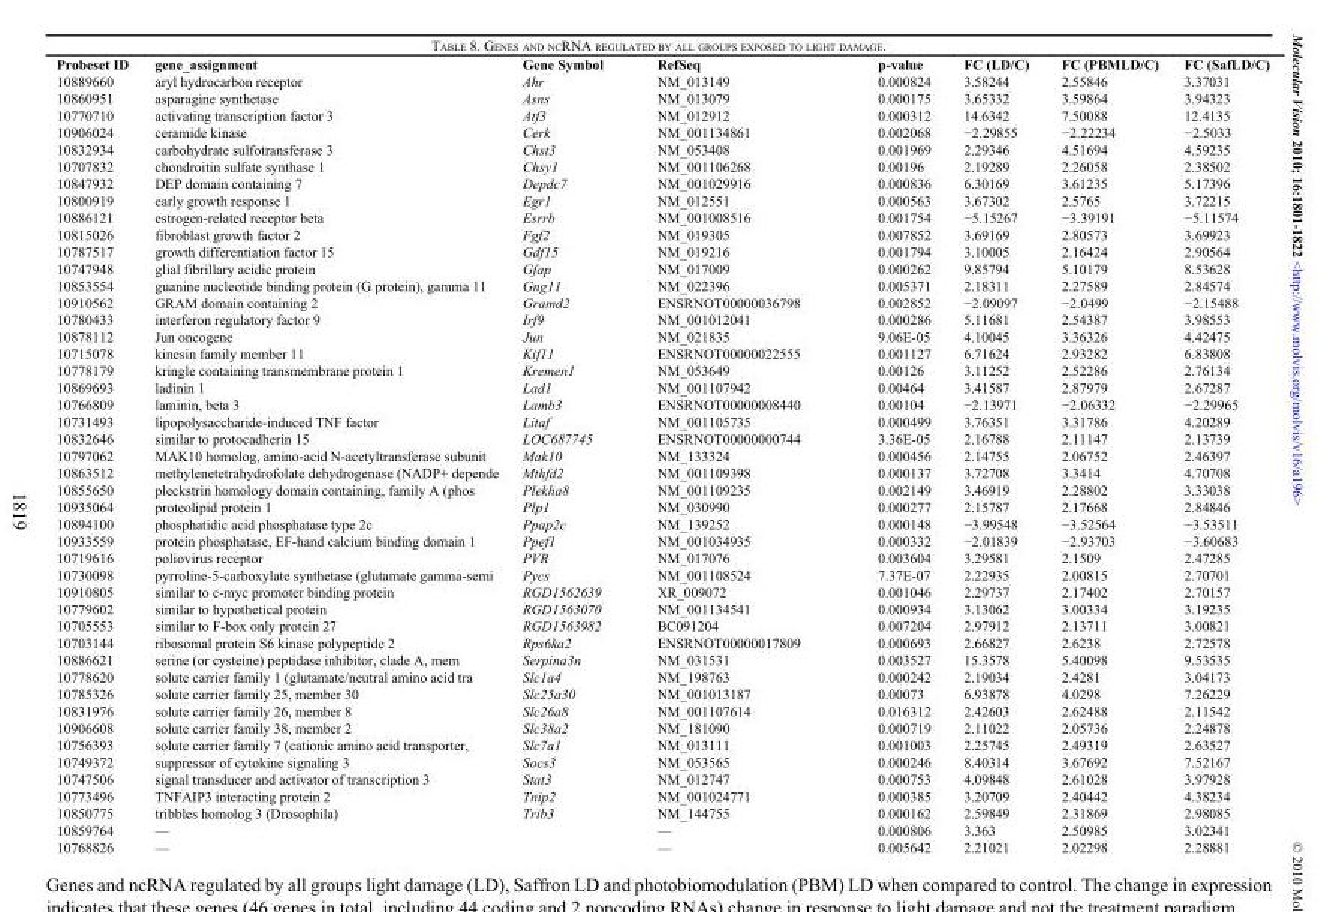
<table><thead><tr><td>Probeset ID</td><td>gene_assignment</td><td>Gene Symbol</td><td>RefSeq</td><td>p-value</td><td>FC (LD/C)</td><td>FC (PBMLD/C)</td><td>FC (SafLD/C)</td></tr></thead><tbody><tr><td>10889660</td><td>aryl hydrocarbon receptor</td><td>Ahr</td><td>NM_013149</td><td>0.000824</td><td>3.58244</td><td>2.55846</td><td>3.37031</td></tr><tr><td>10860951</td><td>asparagine synthetase</td><td>Asns</td><td>NM_013079</td><td>0.000175</td><td>3.65332</td><td>3.59864</td><td>3.94323</td></tr><tr><td>10770710</td><td>activating transcription factor 3</td><td>Atf3</td><td>NM_012912</td><td>0.000312</td><td>14.6342</td><td>7.50088</td><td>12.4135</td></tr><tr><td>10906024</td><td>ceramide kinase</td><td>Cerk</td><td>NM_001134861</td><td>0.002068</td><td>−2.29855</td><td>−2.22234</td><td>−2.5033</td></tr><tr><td>10832934</td><td>carbohydrate sulfotransferase 3</td><td>Chst3</td><td>NM_053408</td><td>0.001969</td><td>2.29346</td><td>4.51694</td><td>4.59235</td></tr><tr><td>10707832</td><td>chondroitin sulfate synthase 1</td><td>Chsy1</td><td>NM_001106268</td><td>0.00196</td><td>2.19289</td><td>2.26058</td><td>2.38502</td></tr><tr><td>10847932</td><td>DEP domain containing 7</td><td>Depdc7</td><td>NM_001029916</td><td>0.000836</td><td>6.30169</td><td>3.61235</td><td>5.17396</td></tr><tr><td>10800919</td><td>early growth response 1</td><td>Egr1</td><td>NM_012551</td><td>0.000563</td><td>3.67302</td><td>2.5765</td><td>3.72215</td></tr><tr><td>10886121</td><td>estrogen-related receptor beta</td><td>Esrrb</td><td>NM_001008516</td><td>0.001754</td><td>−5.15267</td><td>−3.39191</td><td>−5.11574</td></tr><tr><td>10815026</td><td>fibroblast growth factor 2</td><td>Fgf2</td><td>NM_019305</td><td>0.007852</td><td>3.69169</td><td>2.80573</td><td>3.69923</td></tr><tr><td>10787517</td><td>growth differentiation factor 15</td><td>Gdf15</td><td>NM_019216</td><td>0.001794</td><td>3.10005</td><td>2.16424</td><td>2.90564</td></tr><tr><td>10747948</td><td>glial fibrillary acidic protein</td><td>Gfap</td><td>NM_017009</td><td>0.000262</td><td>9.85794</td><td>5.10179</td><td>8.53628</td></tr><tr><td>10853554</td><td>guanine nucleotide binding protein (G protein), gamma 11</td><td>Gng11</td><td>NM_022396</td><td>0.005371</td><td>2.18311</td><td>2.27589</td><td>2.84574</td></tr><tr><td>10910562</td><td>GRAM domain containing 2</td><td>Gramd2</td><td>ENSRNOT00000036798</td><td>0.002852</td><td>−2.09097</td><td>−2.0499</td><td>−2.15488</td></tr><tr><td>10780433</td><td>interferon regulatory factor 9</td><td>Irf9</td><td>NM_001012041</td><td>0.000286</td><td>5.11681</td><td>2.54387</td><td>3.98553</td></tr><tr><td>10878112</td><td>Jun oncogene</td><td>Jun</td><td>NM_021835</td><td>9.06E-05</td><td>4.10045</td><td>3.36326</td><td>4.42475</td></tr><tr><td>10715078</td><td>kinesin family member 11</td><td>Kif11</td><td>ENSRNOT00000022555</td><td>0.001127</td><td>6.71624</td><td>2.93282</td><td>6.83808</td></tr><tr><td>10778179</td><td>kringle containing transmembrane protein 1</td><td>Kremen1</td><td>NM_053649</td><td>0.00126</td><td>3.11252</td><td>2.52286</td><td>2.76134</td></tr><tr><td>10869693</td><td>ladinin 1</td><td>Lad1</td><td>NM_001107942</td><td>0.00464</td><td>3.41587</td><td>2.87979</td><td>2.67287</td></tr><tr><td>10766809</td><td>laminin, beta 3</td><td>Lamb3</td><td>ENSRNOT00000008440</td><td>0.00104</td><td>−2.13971</td><td>−2.06332</td><td>−2.29965</td></tr><tr><td>10731493</td><td>lipopolysaccharide-induced TNF factor</td><td>Litaf</td><td>NM_001105735</td><td>0.000499</td><td>3.76351</td><td>3.31786</td><td>4.20289</td></tr><tr><td>10832646</td><td>similar to protocadherin 15</td><td>LOC687745</td><td>ENSRNOT00000000744</td><td>3.36E-05</td><td>2.16788</td><td>2.11147</td><td>2.13739</td></tr><tr><td>10797062</td><td>MAK10 homolog, amino-acid N-acetyltransferase subunit</td><td>Mak10</td><td>NM_133324</td><td>0.000456</td><td>2.14755</td><td>2.06752</td><td>2.46397</td></tr><tr><td>10863512</td><td>methylenetetrahydrofolate dehydrogenase (NADP+ depende</td><td>Mthfd2</td><td>NM_001109398</td><td>0.000137</td><td>3.72708</td><td>3.3414</td><td>4.70708</td></tr><tr><td>10855650</td><td>pleckstrin homology domain containing, family A (phos</td><td>Plekha8</td><td>NM_001109235</td><td>0.002149</td><td>3.46919</td><td>2.28802</td><td>3.33038</td></tr><tr><td>10935064</td><td>proteolipid protein 1</td><td>Plp1</td><td>NM_030990</td><td>0.000277</td><td>2.15787</td><td>2.17668</td><td>2.84846</td></tr><tr><td>10894100</td><td>phosphatidic acid phosphatase type 2c</td><td>Ppap2c</td><td>NM_139252</td><td>0.000148</td><td>−3.99548</td><td>−3.52564</td><td>−3.53511</td></tr><tr><td>10933559</td><td>protein phosphatase, EF-hand calcium binding domain 1</td><td>Ppef1</td><td>NM_001034935</td><td>0.000332</td><td>−2.01839</td><td>−2.93703</td><td>−3.60683</td></tr><tr><td>10719616</td><td>poliovirus receptor</td><td>PVR</td><td>NM_017076</td><td>0.003604</td><td>3.29581</td><td>2.1509</td><td>2.47285</td></tr><tr><td>10730098</td><td>pyrroline-5-carboxylate synthetase (glutamate gamma-semi</td><td>Pycs</td><td>NM_001108524</td><td>7.37E-07</td><td>2.22935</td><td>2.00815</td><td>2.70701</td></tr><tr><td>10910805</td><td>similar to c-myc promoter binding protein</td><td>RGD1562639</td><td>XR_009072</td><td>0.001046</td><td>2.29737</td><td>2.17402</td><td>2.70157</td></tr><tr><td>10779602</td><td>similar to hypothetical protein</td><td>RGD1563070</td><td>NM_001134541</td><td>0.000934</td><td>3.13062</td><td>3.00334</td><td>3.19235</td></tr><tr><td>10705553</td><td>similar to F-box only protein 27</td><td>RGD1563982</td><td>BC091204</td><td>0.007204</td><td>2.97912</td><td>2.13711</td><td>3.00821</td></tr><tr><td>10703144</td><td>ribosomal protein S6 kinase polypeptide 2</td><td>Rps6ka2</td><td>ENSRNOT00000017809</td><td>0.000693</td><td>2.66827</td><td>2.6238</td><td>2.72578</td></tr><tr><td>10886621</td><td>serine (or cysteine) peptidase inhibitor, clade A, mem</td><td>Serpina3n</td><td>NM_031531</td><td>0.003527</td><td>15.3578</td><td>5.40098</td><td>9.53535</td></tr><tr><td>10778620</td><td>solute carrier family 1 (glutamate/neutral amino acid tra</td><td>Slc1a4</td><td>NM_198763</td><td>0.000242</td><td>2.19034</td><td>2.4281</td><td>3.04173</td></tr><tr><td>10785326</td><td>solute carrier family 25, member 30</td><td>Slc25a30</td><td>NM_001013187</td><td>0.00073</td><td>6.93878</td><td>4.0298</td><td>7.26229</td></tr><tr><td>10831976</td><td>solute carrier family 26, member 8</td><td>Slc26a8</td><td>NM_001107614</td><td>0.016312</td><td>2.42603</td><td>2.62488</td><td>2.11542</td></tr><tr><td>10906608</td><td>solute carrier family 38, member 2</td><td>Slc38a2</td><td>NM_181090</td><td>0.000719</td><td>2.11022</td><td>2.05736</td><td>2.24878</td></tr><tr><td>10756393</td><td>solute carrier family 7 (cationic amino acid transporter,</td><td>Slc7a1</td><td>NM_013111</td><td>0.001003</td><td>2.25745</td><td>2.49319</td><td>2.63527</td></tr><tr><td>10749372</td><td>suppressor of cytokine signaling 3</td><td>Socs3</td><td>NM_053565</td><td>0.000246</td><td>8.40314</td><td>3.67692</td><td>7.52167</td></tr><tr><td>10747506</td><td>signal transducer and activator of transcription 3</td><td>Stat3</td><td>NM_012747</td><td>0.000753</td><td>4.09848</td><td>2.61028</td><td>3.97928</td></tr><tr><td>10773496</td><td>TNFAIP3 interacting protein 2</td><td>Tnip2</td><td>NM_001024771</td><td>0.000385</td><td>3.20709</td><td>2.40442</td><td>4.38234</td></tr><tr><td>10850775</td><td>tribbles homolog 3 (Drosophila)</td><td>Trib3</td><td>NM_144755</td><td>0.000162</td><td>2.59849</td><td>2.31869</td><td>2.98085</td></tr><tr><td>10859764</td><td>—</td><td></td><td>—</td><td>0.000806</td><td>3.363</td><td>2.50985</td><td>3.02341</td></tr><tr><td>10768826</td><td>—</td><td></td><td>—</td><td>0.005642</td><td>2.21021</td><td>2.02298</td><td>2.28881</td></tr></tbody></table>